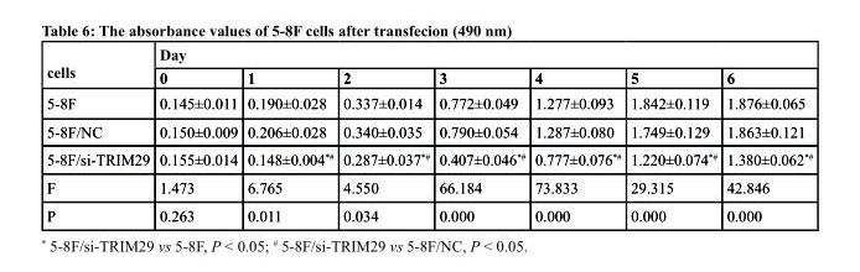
<table><thead><tr><td rowspan="2">cells</td><td colspan="7">Day</td></tr><tr><td>0</td><td>1</td><td>2</td><td>3</td><td>4</td><td>5</td><td>6</td></tr></thead><tbody><tr><td>5-8F</td><td>0.145±0.011</td><td>0.190±0.028</td><td>0.337±0.014</td><td>0.772±0.049</td><td>1.277±0.093</td><td>1.842±0.119</td><td>1.876±0.065</td></tr><tr><td>5-8F/NC</td><td>0.150±0.009</td><td>0.206±0.028</td><td>0.340±0.035</td><td>0.790±0.054</td><td>1.287±0.080</td><td>1.749±0.129</td><td>1.863±0.121</td></tr><tr><td>5-8F/si-TRIM29</td><td>0.155±0.014</td><td>0.148±0.004*#</td><td>0.287±0.037*#</td><td>0.407±0.046*#</td><td>0.777±0.076*#</td><td>1.220±0.074*#</td><td>1.380±0.062*#</td></tr><tr><td>F</td><td>1.473</td><td>6.765</td><td>4.550</td><td>66.184</td><td>73.833</td><td>29.315</td><td>42.846</td></tr><tr><td>P</td><td>0.263</td><td>0.011</td><td>0.034</td><td>0.000</td><td>0.000</td><td>0.000</td><td>0.000</td></tr></tbody></table>